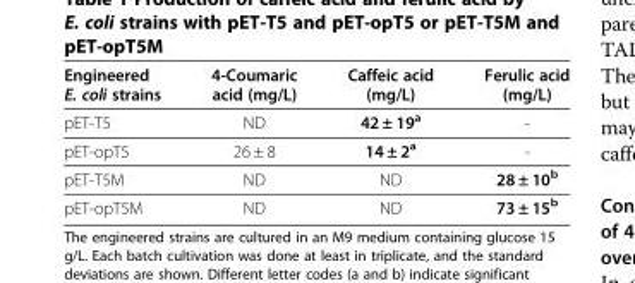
<table><thead><tr><td>Engineered E. coli strains</td><td>4-Coumaric acid (mg/L)</td><td>Caffeic acid (mg/L)</td><td>Ferulic acid (mg/L)</td></tr></thead><tbody><tr><td>pET-T5</td><td>ND</td><td>42 ± 19<sup>a</sup></td><td>-</td></tr><tr><td>pET-opT5</td><td>26 ± 8</td><td>14 ± 2<sup>a</sup></td><td>-</td></tr><tr><td>pET-T5M</td><td>ND</td><td>ND</td><td>28 ± 10<sup>b</sup></td></tr><tr><td>pET-opT5M</td><td>ND</td><td>ND</td><td>73 ± 15<sup>b</sup></td></tr></tbody></table>